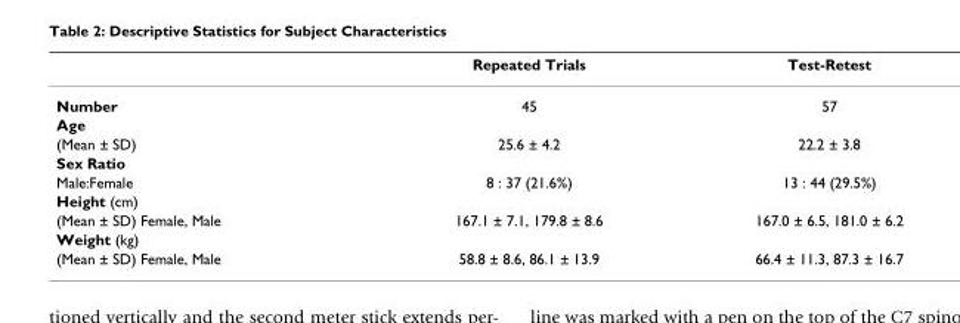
<table><thead><tr><td></td><td>Repeated Trials</td><td>Test-Retest</td></tr></thead><tbody><tr><td>Number</td><td>45</td><td>57</td></tr><tr><td colspan="3">Age</td></tr><tr><td>(Mean ± SD)</td><td>25.6 ± 4.2</td><td>22.2 ± 3.8</td></tr><tr><td colspan="3">Sex Ratio</td></tr><tr><td>Male:Female</td><td>8 : 37 (21.6%)</td><td>13 : 44 (29.5%)</td></tr><tr><td colspan="3">Height (cm)</td></tr><tr><td>(Mean ± SD) Female, Male</td><td>167.1 ± 7.1, 179.8 ± 8.6</td><td>167.0 ± 6.5, 181.0 ± 6.2</td></tr><tr><td colspan="3">Weight (kg)</td></tr><tr><td>(Mean ± SD) Female, Male</td><td>58.8 ± 8.6, 86.1 ± 13.9</td><td>66.4 ± 11.3, 87.3 ± 16.7</td></tr></tbody></table>